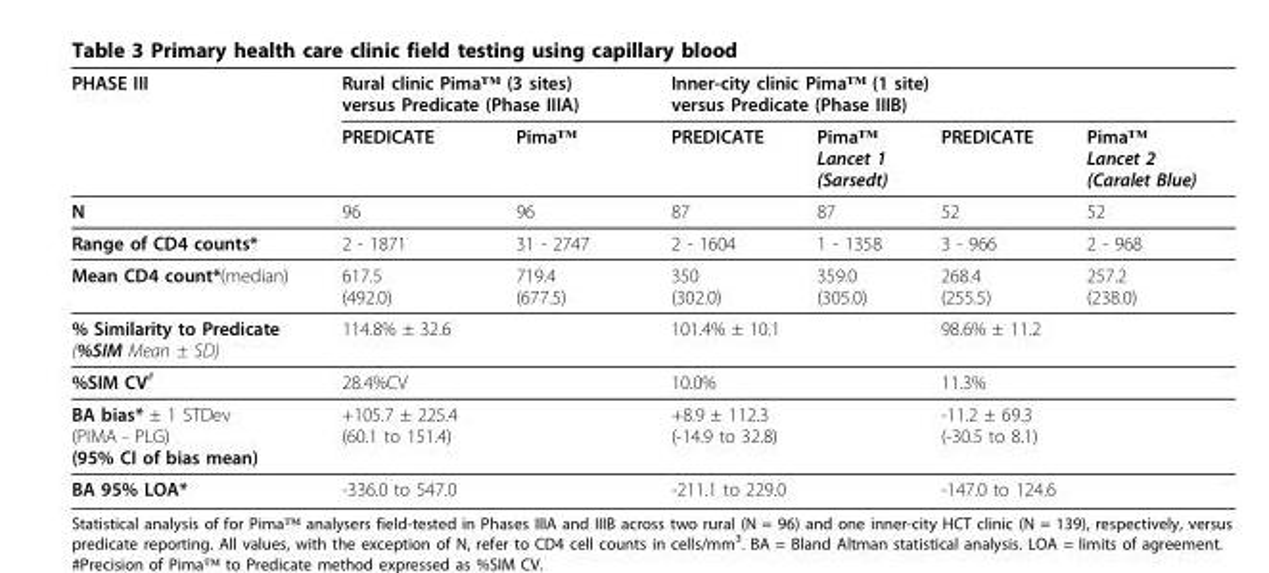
<table><thead><tr><td rowspan="2">PHASE III</td><td colspan="2">Rural clinic Pima™ (3 sites) versus Predicate (Phase IIIA)</td><td colspan="4">Inner-city clinic Pima™ (1 site) versus Predicate (Phase IIIB)</td></tr><tr><td>PREDICATE</td><td>Pima™</td><td>PREDICATE</td><td>Pima™ Lancet 1 (Sarsedt)</td><td>PREDICATE</td><td>Pima™ Lancet 2 (Caralet Blue)</td></tr></thead><tbody><tr><td>N</td><td>96</td><td>96</td><td>87</td><td>87</td><td>52</td><td>52</td></tr><tr><td>Range of CD4 counts*</td><td>2 - 1871</td><td>31 - 2747</td><td>2 - 1604</td><td>1 - 1358</td><td>3 - 966</td><td>2 - 968</td></tr><tr><td>Mean CD4 count*(median)</td><td>617.5 (492.0)</td><td>719.4 (677.5)</td><td>350 (302.0)</td><td>359.0 (305.0)</td><td>268.4 (255.5)</td><td>257.2 (238.0)</td></tr><tr><td>% Similarity to Predicate (%SIM Mean ± SD)</td><td colspan="2">114.8% ± 32.6</td><td colspan="2">101.4% ± 10.1</td><td colspan="2">98.6% ± 11.2</td></tr><tr><td>%SIM CV<sup>#</sup></td><td colspan="2">28.4%CV</td><td colspan="2">10.0%</td><td colspan="2">11.3%</td></tr><tr><td>BA bias* ± 1 STDev (PIMA - PLG) (95% CI of bias mean)</td><td colspan="2">+105.7 ± 225.4 (60.1 to 151.4)</td><td colspan="2">+8.9 ± 112.3 (-14.9 to 32.8)</td><td colspan="2">-11.2 ± 69.3 (-30.5 to 8.1)</td></tr><tr><td>BA 95% LOA*</td><td colspan="2">-336.0 to 547.0</td><td colspan="2">-211.1 to 229.0</td><td colspan="2">-147.0 to 124.6</td></tr></tbody></table>